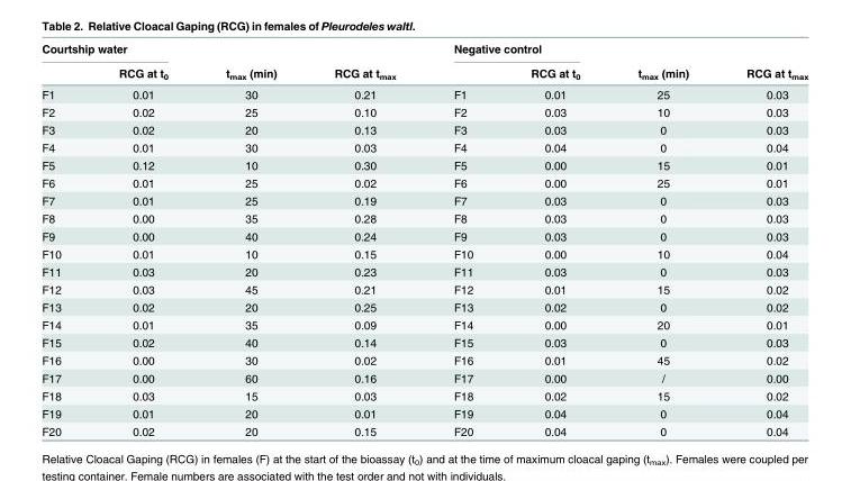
<table><thead><tr><td colspan="2">Courtship water</td><td rowspan="2">t<sub>max</sub> (min)</td><td rowspan="2">RCG at t<sub>max</sub></td><td colspan="2">Negative control</td><td rowspan="2">t<sub>max</sub> (min)</td><td rowspan="2">RCG at t<sub>max</sub></td></tr><tr><td></td><td>RCG at t<sub>0</sub></td><td></td><td>RCG at t<sub>0</sub></td></tr></thead><tbody><tr><td>F1</td><td>0.01</td><td>30</td><td>0.21</td><td>F1</td><td>0.01</td><td>25</td><td>0.03</td></tr><tr><td>F2</td><td>0.02</td><td>25</td><td>0.10</td><td>F2</td><td>0.03</td><td>10</td><td>0.03</td></tr><tr><td>F3</td><td>0.02</td><td>20</td><td>0.13</td><td>F3</td><td>0.03</td><td>0</td><td>0.03</td></tr><tr><td>F4</td><td>0.01</td><td>30</td><td>0.03</td><td>F4</td><td>0.04</td><td>0</td><td>0.04</td></tr><tr><td>F5</td><td>0.12</td><td>10</td><td>0.30</td><td>F5</td><td>0.00</td><td>15</td><td>0.01</td></tr><tr><td>F6</td><td>0.01</td><td>25</td><td>0.02</td><td>F6</td><td>0.00</td><td>25</td><td>0.01</td></tr><tr><td>F7</td><td>0.01</td><td>25</td><td>0.19</td><td>F7</td><td>0.03</td><td>0</td><td>0.03</td></tr><tr><td>F8</td><td>0.00</td><td>35</td><td>0.28</td><td>F8</td><td>0.03</td><td>0</td><td>0.03</td></tr><tr><td>F9</td><td>0.00</td><td>40</td><td>0.24</td><td>F9</td><td>0.03</td><td>0</td><td>0.03</td></tr><tr><td>F10</td><td>0.01</td><td>10</td><td>0.15</td><td>F10</td><td>0.00</td><td>10</td><td>0.04</td></tr><tr><td>F11</td><td>0.03</td><td>20</td><td>0.23</td><td>F11</td><td>0.03</td><td>0</td><td>0.03</td></tr><tr><td>F12</td><td>0.03</td><td>45</td><td>0.21</td><td>F12</td><td>0.01</td><td>15</td><td>0.02</td></tr><tr><td>F13</td><td>0.02</td><td>20</td><td>0.25</td><td>F13</td><td>0.02</td><td>0</td><td>0.02</td></tr><tr><td>F14</td><td>0.01</td><td>35</td><td>0.09</td><td>F14</td><td>0.00</td><td>20</td><td>0.01</td></tr><tr><td>F15</td><td>0.02</td><td>40</td><td>0.14</td><td>F15</td><td>0.03</td><td>0</td><td>0.03</td></tr><tr><td>F16</td><td>0.00</td><td>30</td><td>0.02</td><td>F16</td><td>0.01</td><td>45</td><td>0.02</td></tr><tr><td>F17</td><td>0.00</td><td>60</td><td>0.16</td><td>F17</td><td>0.00</td><td>/</td><td>0.00</td></tr><tr><td>F18</td><td>0.03</td><td>15</td><td>0.03</td><td>F18</td><td>0.02</td><td>15</td><td>0.02</td></tr><tr><td>F19</td><td>0.01</td><td>20</td><td>0.01</td><td>F19</td><td>0.04</td><td>0</td><td>0.04</td></tr><tr><td>F20</td><td>0.02</td><td>20</td><td>0.15</td><td>F20</td><td>0.04</td><td>0</td><td>0.04</td></tr></tbody></table>